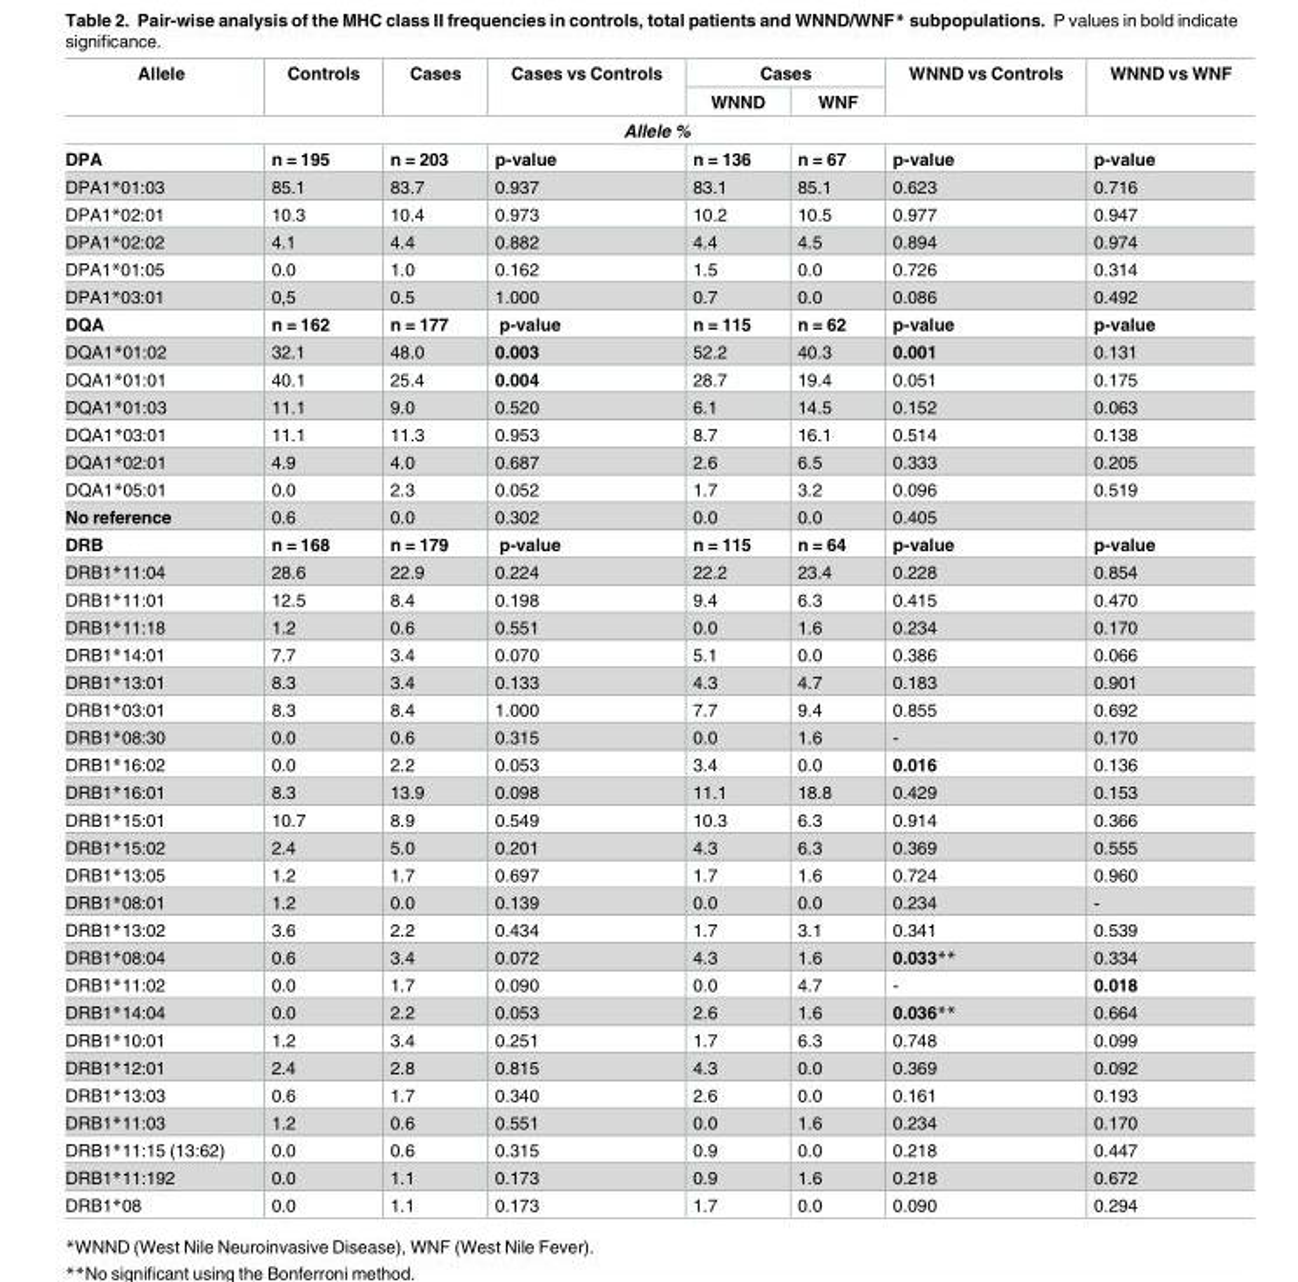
<table><thead><tr><td rowspan="2">Allele</td><td rowspan="2">Controls</td><td rowspan="2">Cases</td><td rowspan="2">Cases vs Controls</td><td colspan="2">Cases</td><td rowspan="2">WNND vs Controls</td><td rowspan="2">WNND vs WNF</td></tr><tr><td>WNND</td><td>WNF</td></tr><tr><td colspan="8">Allele %</td></tr></thead><tbody><tr><td>DPA</td><td>n = 195</td><td>n = 203</td><td>p-value</td><td>n = 136</td><td>n = 67</td><td>p-value</td><td>p-value</td></tr><tr><td>DPA1*01:03</td><td>85.1</td><td>83.7</td><td>0.937</td><td>83.1</td><td>85.1</td><td>0.623</td><td>0.716</td></tr><tr><td>DPA1*02:01</td><td>10.3</td><td>10.4</td><td>0.973</td><td>10.2</td><td>10.5</td><td>0.977</td><td>0.947</td></tr><tr><td>DPA1*02:02</td><td>4.1</td><td>4.4</td><td>0.882</td><td>4.4</td><td>4.5</td><td>0.894</td><td>0.974</td></tr><tr><td>DPA1*01:05</td><td>0.0</td><td>1.0</td><td>0.162</td><td>1.5</td><td>0.0</td><td>0.726</td><td>0.314</td></tr><tr><td>DPA1*03:01</td><td>0,5</td><td>0.5</td><td>1.000</td><td>0.7</td><td>0.0</td><td>0.086</td><td>0.492</td></tr><tr><td>DQA</td><td>n = 162</td><td>n = 177</td><td>p-value</td><td>n = 115</td><td>n = 62</td><td>p-value</td><td>p-value</td></tr><tr><td>DQA1*01:02</td><td>32.1</td><td>48.0</td><td>0.003</td><td>52.2</td><td>40.3</td><td>0.001</td><td>0.131</td></tr><tr><td>DQA1*01:01</td><td>40.1</td><td>25.4</td><td>0.004</td><td>28.7</td><td>19.4</td><td>0.051</td><td>0.175</td></tr><tr><td>DQA1*01:03</td><td>11.1</td><td>9.0</td><td>0.520</td><td>6.1</td><td>14.5</td><td>0.152</td><td>0.063</td></tr><tr><td>DQA1*03:01</td><td>11.1</td><td>11.3</td><td>0.953</td><td>8.7</td><td>16.1</td><td>0.514</td><td>0.138</td></tr><tr><td>DQA1*02:01</td><td>4.9</td><td>4.0</td><td>0.687</td><td>2.6</td><td>6.5</td><td>0.333</td><td>0.205</td></tr><tr><td>DQA1*05:01</td><td>0.0</td><td>2.3</td><td>0.052</td><td>1.7</td><td>3.2</td><td>0.096</td><td>0.519</td></tr><tr><td>No reference</td><td>0.6</td><td>0.0</td><td>0.302</td><td>0.0</td><td>0.0</td><td>0.405</td><td></td></tr><tr><td>DRB</td><td>n = 168</td><td>n = 179</td><td>p-value</td><td>n = 115</td><td>n = 64</td><td>p-value</td><td>p-value</td></tr><tr><td>DRB1*11:04</td><td>28.6</td><td>22.9</td><td>0.224</td><td>22.2</td><td>23.4</td><td>0.228</td><td>0.854</td></tr><tr><td>DRB1*11:01</td><td>12.5</td><td>8.4</td><td>0.198</td><td>9.4</td><td>6.3</td><td>0.415</td><td>0.470</td></tr><tr><td>DRB1*11:18</td><td>1.2</td><td>0.6</td><td>0.551</td><td>0.0</td><td>1.6</td><td>0.234</td><td>0.170</td></tr><tr><td>DRB1*14:01</td><td>7.7</td><td>3.4</td><td>0.070</td><td>5.1</td><td>0.0</td><td>0.386</td><td>0.066</td></tr><tr><td>DRB1*13:01</td><td>8.3</td><td>3.4</td><td>0.133</td><td>4.3</td><td>4.7</td><td>0.183</td><td>0.901</td></tr><tr><td>DRB1*03:01</td><td>8.3</td><td>8.4</td><td>1.000</td><td>7.7</td><td>9.4</td><td>0.855</td><td>0.692</td></tr><tr><td>DRB1*08:30</td><td>0.0</td><td>0.6</td><td>0.315</td><td>0.0</td><td>1.6</td><td>-</td><td>0.170</td></tr><tr><td>DRB1*16:02</td><td>0.0</td><td>2.2</td><td>0.053</td><td>3.4</td><td>0.0</td><td>0.016</td><td>0.136</td></tr><tr><td>DRB1*16:01</td><td>8.3</td><td>13.9</td><td>0.098</td><td>11.1</td><td>18.8</td><td>0.429</td><td>0.153</td></tr><tr><td>DRB1*15:01</td><td>10.7</td><td>8.9</td><td>0.549</td><td>10.3</td><td>6.3</td><td>0.914</td><td>0.366</td></tr><tr><td>DRB1*15:02</td><td>2.4</td><td>5.0</td><td>0.201</td><td>4.3</td><td>6.3</td><td>0.369</td><td>0.555</td></tr><tr><td>DRB1*13:05</td><td>1.2</td><td>1.7</td><td>0.697</td><td>1.7</td><td>1.6</td><td>0.724</td><td>0.960</td></tr><tr><td>DRB1*08:01</td><td>1.2</td><td>0.0</td><td>0.139</td><td>0.0</td><td>0.0</td><td>0.234</td><td>-</td></tr><tr><td>DRB1*13:02</td><td>3.6</td><td>2.2</td><td>0.434</td><td>1.7</td><td>3.1</td><td>0.341</td><td>0.539</td></tr><tr><td>DRB1*08:04</td><td>0.6</td><td>3.4</td><td>0.072</td><td>4.3</td><td>1.6</td><td>0.033**</td><td>0.334</td></tr><tr><td>DRB1*11:02</td><td>0.0</td><td>1.7</td><td>0.090</td><td>0.0</td><td>4.7</td><td>-</td><td>0.018</td></tr><tr><td>DRB1*14:04</td><td>0.0</td><td>2.2</td><td>0.053</td><td>2.6</td><td>1.6</td><td>0.036**</td><td>0.664</td></tr><tr><td>DRB1*10:01</td><td>1.2</td><td>3.4</td><td>0.251</td><td>1.7</td><td>6.3</td><td>0.748</td><td>0.099</td></tr><tr><td>DRB1*12:01</td><td>2.4</td><td>2.8</td><td>0.815</td><td>4.3</td><td>0.0</td><td>0.369</td><td>0.092</td></tr><tr><td>DRB1*13:03</td><td>0.6</td><td>1.7</td><td>0.340</td><td>2.6</td><td>0.0</td><td>0.161</td><td>0.193</td></tr><tr><td>DRB1*11:03</td><td>1.2</td><td>0.6</td><td>0.551</td><td>0.0</td><td>1.6</td><td>0.234</td><td>0.170</td></tr><tr><td>DRB1*11:15 (13:62)</td><td>0.0</td><td>0.6</td><td>0.315</td><td>0.9</td><td>0.0</td><td>0.218</td><td>0.447</td></tr><tr><td>DRB1*11:192</td><td>0.0</td><td>1.1</td><td>0.173</td><td>0.9</td><td>1.6</td><td>0.218</td><td>0.672</td></tr><tr><td>DRB1*08</td><td>0.0</td><td>1.1</td><td>0.173</td><td>1.7</td><td>0.0</td><td>0.090</td><td>0.294</td></tr></tbody></table>